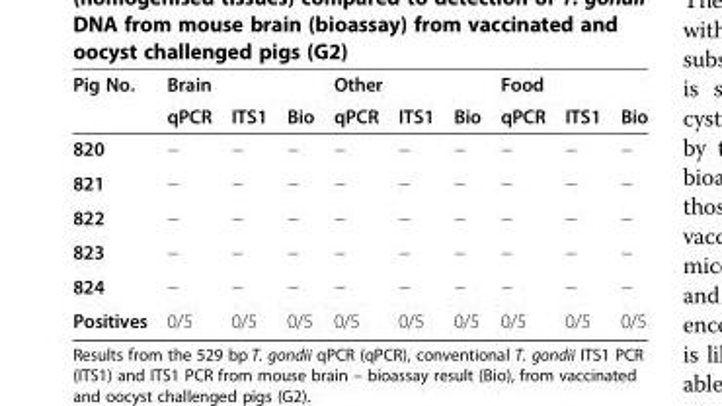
<table><thead><tr><td rowspan="2">Pig No.</td><td colspan="3">Brain</td><td colspan="3">Other</td><td colspan="3">Food</td></tr><tr><td>qPCR</td><td>ITS1</td><td>Bio</td><td>qPCR</td><td>ITS1</td><td>Bio</td><td>qPCR</td><td>ITS1</td><td>Bio</td></tr></thead><tbody><tr><td>820</td><td>−</td><td>−</td><td>−</td><td>−</td><td>−</td><td>−</td><td>−</td><td>−</td><td>−</td></tr><tr><td>821</td><td>−</td><td>−</td><td>−</td><td>−</td><td>−</td><td>−</td><td>−</td><td>−</td><td>−</td></tr><tr><td>822</td><td>−</td><td>−</td><td>−</td><td>−</td><td>−</td><td>−</td><td>−</td><td>−</td><td>−</td></tr><tr><td>823</td><td>−</td><td>−</td><td>−</td><td>−</td><td>−</td><td>−</td><td>−</td><td>−</td><td>−</td></tr><tr><td>824</td><td>−</td><td>−</td><td>−</td><td>−</td><td>−</td><td>−</td><td>−</td><td>−</td><td>−</td></tr><tr><td>Positives</td><td>0/5</td><td>0/5</td><td>0/5</td><td>0/5</td><td>0/5</td><td>0/5</td><td>0/5</td><td>0/5</td><td>0/5</td></tr></tbody></table>